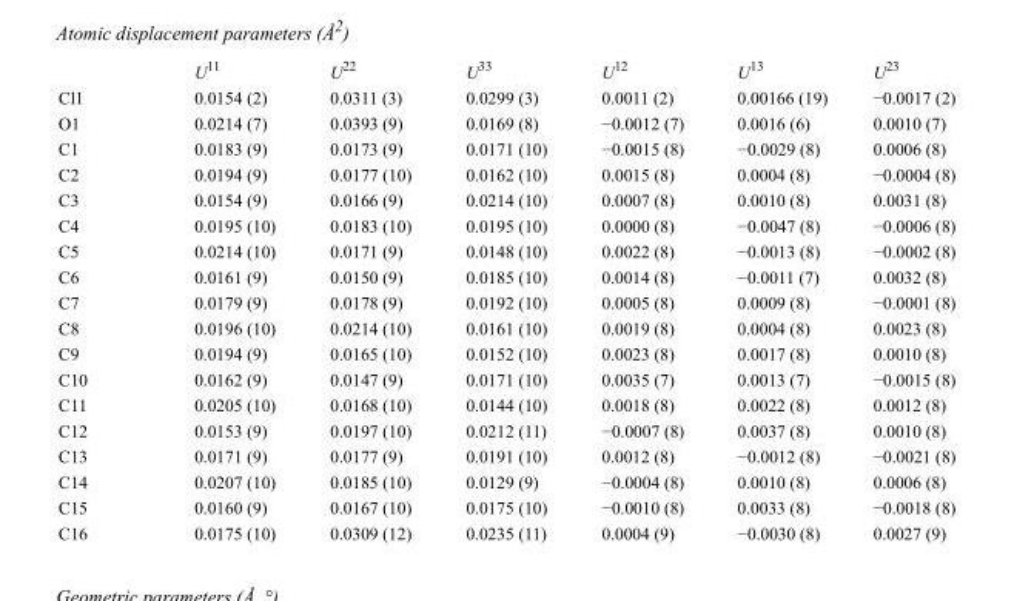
<table><thead><tr><td></td><td>U<sup>11</sup></td><td>U<sup>22</sup></td><td>U<sup>33</sup></td><td>U<sup>12</sup></td><td>U<sup>13</sup></td><td>U<sup>23</sup></td></tr></thead><tbody><tr><td>Cl1</td><td>0.0154 (2)</td><td>0.0311 (3)</td><td>0.0299 (3)</td><td>0.0011 (2)</td><td>0.00166 (19)</td><td>−0.0017 (2)</td></tr><tr><td>O1</td><td>0.0214 (7)</td><td>0.0393 (9)</td><td>0.0169 (8)</td><td>−0.0012 (7)</td><td>0.0016 (6)</td><td>0.0010 (7)</td></tr><tr><td>C1</td><td>0.0183 (9)</td><td>0.0173 (9)</td><td>0.0171 (10)</td><td>−0.0015 (8)</td><td>−0.0029 (8)</td><td>0.0006 (8)</td></tr><tr><td>C2</td><td>0.0194 (9)</td><td>0.0177 (10)</td><td>0.0162 (10)</td><td>0.0015 (8)</td><td>0.0004 (8)</td><td>−0.0004 (8)</td></tr><tr><td>C3</td><td>0.0154 (9)</td><td>0.0166 (9)</td><td>0.0214 (10)</td><td>0.0007 (8)</td><td>0.0010 (8)</td><td>0.0031 (8)</td></tr><tr><td>C4</td><td>0.0195 (10)</td><td>0.0183 (10)</td><td>0.0195 (10)</td><td>0.0000 (8)</td><td>−0.0047 (8)</td><td>−0.0006 (8)</td></tr><tr><td>C5</td><td>0.0214 (10)</td><td>0.0171 (9)</td><td>0.0148 (10)</td><td>0.0022 (8)</td><td>−0.0013 (8)</td><td>−0.0002 (8)</td></tr><tr><td>C6</td><td>0.0161 (9)</td><td>0.0150 (9)</td><td>0.0185 (10)</td><td>0.0014 (8)</td><td>−0.0011 (7)</td><td>0.0032 (8)</td></tr><tr><td>C7</td><td>0.0179 (9)</td><td>0.0178 (9)</td><td>0.0192 (10)</td><td>0.0005 (8)</td><td>0.0009 (8)</td><td>−0.0001 (8)</td></tr><tr><td>C8</td><td>0.0196 (10)</td><td>0.0214 (10)</td><td>0.0161 (10)</td><td>0.0019 (8)</td><td>0.0004 (8)</td><td>0.0023 (8)</td></tr><tr><td>C9</td><td>0.0194 (9)</td><td>0.0165 (10)</td><td>0.0152 (10)</td><td>0.0023 (8)</td><td>0.0017 (8)</td><td>0.0010 (8)</td></tr><tr><td>C10</td><td>0.0162 (9)</td><td>0.0147 (9)</td><td>0.0171 (10)</td><td>0.0035 (7)</td><td>0.0013 (7)</td><td>−0.0015 (8)</td></tr><tr><td>C11</td><td>0.0205 (10)</td><td>0.0168 (10)</td><td>0.0144 (10)</td><td>0.0018 (8)</td><td>0.0022 (8)</td><td>0.0012 (8)</td></tr><tr><td>C12</td><td>0.0153 (9)</td><td>0.0197 (10)</td><td>0.0212 (11)</td><td>−0.0007 (8)</td><td>0.0037 (8)</td><td>0.0010 (8)</td></tr><tr><td>C13</td><td>0.0171 (9)</td><td>0.0177 (9)</td><td>0.0191 (10)</td><td>0.0012 (8)</td><td>−0.0012 (8)</td><td>−0.0021 (8)</td></tr><tr><td>C14</td><td>0.0207 (10)</td><td>0.0185 (10)</td><td>0.0129 (9)</td><td>−0.0004 (8)</td><td>0.0010 (8)</td><td>0.0006 (8)</td></tr><tr><td>C15</td><td>0.0160 (9)</td><td>0.0167 (10)</td><td>0.0175 (10)</td><td>−0.0010 (8)</td><td>0.0033 (8)</td><td>−0.0018 (8)</td></tr><tr><td>C16</td><td>0.0175 (10)</td><td>0.0309 (12)</td><td>0.0235 (11)</td><td>0.0004 (9)</td><td>−0.0030 (8)</td><td>0.0027 (9)</td></tr></tbody></table>